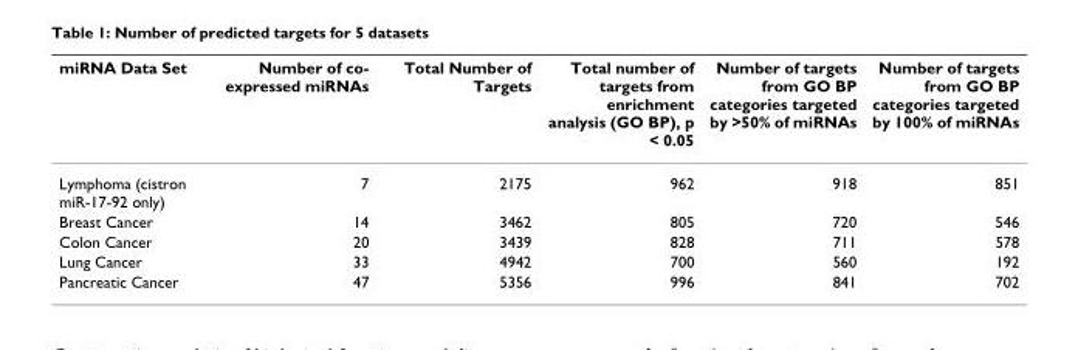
<table><thead><tr><td>miRNA Data Set</td><td>Number of co- expressed miRNAs</td><td>Total Number of Targets</td><td>Total number of targets from enrichment analysis (GO BP), p &lt; 0.05</td><td>Number of targets from GO BP categories targeted by &gt;50% of miRNAs</td><td>Number of targets from GO BP categories targeted by 100% of miRNAs</td></tr></thead><tbody><tr><td>Lymphoma (cistron miR-17-92 only)</td><td>7</td><td>2175</td><td>962</td><td>918</td><td>851</td></tr><tr><td>Breast Cancer</td><td>14</td><td>3462</td><td>805</td><td>720</td><td>546</td></tr><tr><td>Colon Cancer</td><td>20</td><td>3439</td><td>828</td><td>711</td><td>578</td></tr><tr><td>Lung Cancer</td><td>33</td><td>4942</td><td>700</td><td>560</td><td>192</td></tr><tr><td>Pancreatic Cancer</td><td>47</td><td>5356</td><td>996</td><td>841</td><td>702</td></tr></tbody></table>